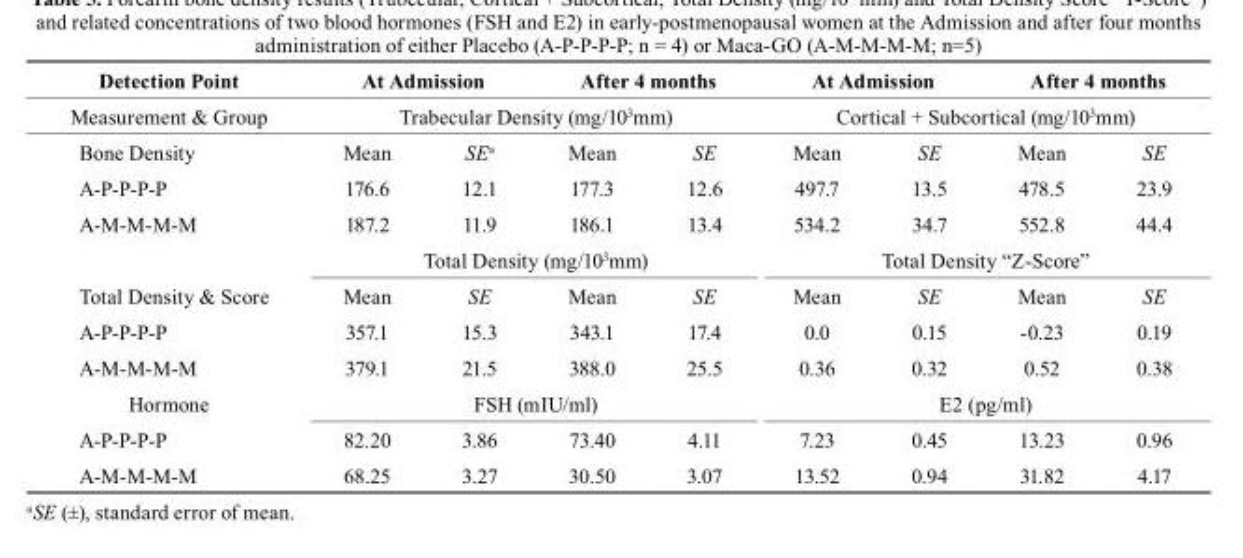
<table><thead><tr><td rowspan="3">Detection Point Measurement &amp; Group Bone Density</td><td colspan="2">At Admission</td><td colspan="2">After 4 months</td><td colspan="2">At Admission</td><td colspan="2">After 4 months</td></tr><tr><td colspan="4">Trabecular Density (mg/103mm)</td><td colspan="4">Cortical + Subcortical (mg/103mm)</td></tr><tr><td>Mean</td><td>SE<sup>a</sup></td><td>Mean</td><td>SE</td><td>Mean</td><td>SE</td><td>Mean</td><td>SE</td></tr></thead><tbody><tr><td>A-P-P-P-P</td><td>176.6</td><td>12.1</td><td>177.3</td><td>12.6</td><td>497.7</td><td>13.5</td><td>478.5</td><td>23.9</td></tr><tr><td rowspan="2">A-M-M-M-M</td><td>187.2</td><td>11.9</td><td>186.1</td><td>13.4</td><td>534.2</td><td>34.7</td><td>552.8</td><td>44.4</td></tr><tr><td colspan="4">Total Density (mg/10<sup>3</sup>mm)</td><td colspan="4">Total Density “Z-Score”</td></tr><tr><td>Total Density &amp; Score</td><td>Mean</td><td>SE</td><td>Mean</td><td>SE</td><td>Mean</td><td>SE</td><td>Mean</td><td>SE</td></tr><tr><td>A-P-P-P-P</td><td>357.1</td><td>15.3</td><td>343.1</td><td>17.4</td><td>0.0</td><td>0.15</td><td>-0.23</td><td>0.19</td></tr><tr><td>A-M-M-M-M</td><td>379.1</td><td>21.5</td><td>388.0</td><td>25.5</td><td>0.36</td><td>0.32</td><td>0.52</td><td>0.38</td></tr><tr><td>Hormone</td><td colspan="4">FSH (mIU/ml)</td><td colspan="4">E2 (pg/ml)</td></tr><tr><td>A-P-P-P-P</td><td>82.20</td><td>3.86</td><td>73.40</td><td>4.11</td><td>7.23</td><td>0.45</td><td>13.23</td><td>0.96</td></tr><tr><td>A-M-M-M-M</td><td>68.25</td><td>3.27</td><td>30.50</td><td>3.07</td><td>13.52</td><td>0.94</td><td>31.82</td><td>4.17</td></tr></tbody></table>